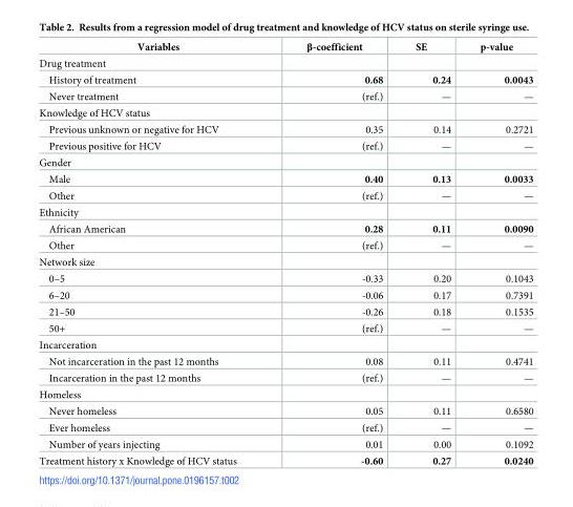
<table><thead><tr><td>Variables</td><td>β-coefficient</td><td>SE</td><td>p-value</td></tr></thead><tbody><tr><td colspan="4">Drug treatment</td></tr><tr><td>History of treatment</td><td>0.68</td><td>0.24</td><td>0.0043</td></tr><tr><td>Never treatment</td><td>(ref.)</td><td>—</td><td>—</td></tr><tr><td colspan="4">Knowledge of HCV status</td></tr><tr><td>Previous unknown or negative for HCV</td><td>0.35</td><td>0.14</td><td>0.2721</td></tr><tr><td>Previous positive for HCV</td><td>(ref.)</td><td>—</td><td>—</td></tr><tr><td colspan="4">Gender</td></tr><tr><td>Male</td><td>0.40</td><td>0.13</td><td>0.0033</td></tr><tr><td>Other</td><td>(ref.)</td><td>—</td><td>—</td></tr><tr><td colspan="4">Ethnicity</td></tr><tr><td>African American</td><td>0.28</td><td>0.11</td><td>0.0090</td></tr><tr><td>Other</td><td>(ref.)</td><td>—</td><td>—</td></tr><tr><td colspan="4">Network size</td></tr><tr><td>0–5</td><td>-0.33</td><td>0.20</td><td>0.1043</td></tr><tr><td>6–20</td><td>-0.06</td><td>0.17</td><td>0.7391</td></tr><tr><td>21–50</td><td>-0.26</td><td>0.18</td><td>0.1535</td></tr><tr><td>50+</td><td>(ref.)</td><td>—</td><td>—</td></tr><tr><td colspan="4">Incarceration</td></tr><tr><td>Not incarceration in the past 12 months</td><td>0.08</td><td>0.11</td><td>0.4741</td></tr><tr><td>Incarceration in the past 12 months</td><td>(ref.)</td><td>—</td><td>—</td></tr><tr><td colspan="4">Homeless</td></tr><tr><td>Never homeless</td><td>0.05</td><td>0.11</td><td>0.6580</td></tr><tr><td>Ever homeless</td><td>(ref.)</td><td>—</td><td>—</td></tr><tr><td>Number of years injecting</td><td>0.01</td><td>0.00</td><td>0.1092</td></tr><tr><td>Treatment history x Knowledge of HCV status</td><td>-0.60</td><td>0.27</td><td>0.0240</td></tr></tbody></table>